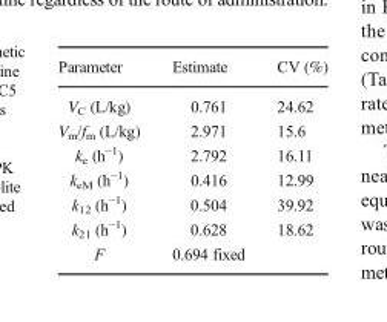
<table><thead><tr><td>Parameter</td><td>Estimate</td><td>CV (%)</td></tr></thead><tbody><tr><td>V<sub>C</sub> (L/kg)</td><td>0.761</td><td>24.62</td></tr><tr><td>V<sub>m</sub>/f<sub>m</sub> (L/kg)</td><td>2.971</td><td>15.6</td></tr><tr><td>k<sub>e</sub> (h<sup>−1</sup>)</td><td>2.792</td><td>16.11</td></tr><tr><td>k<sub>eM</sub> (h<sup>−1</sup>)</td><td>0.416</td><td>12.99</td></tr><tr><td>k<sub>12</sub> (h<sup>−1</sup>)</td><td>0.504</td><td>39.92</td></tr><tr><td>k<sub>21</sub> (h<sup>−1</sup>)</td><td>0.628</td><td>18.62</td></tr><tr><td>F</td><td>0.694 fixed</td><td></td></tr></tbody></table>